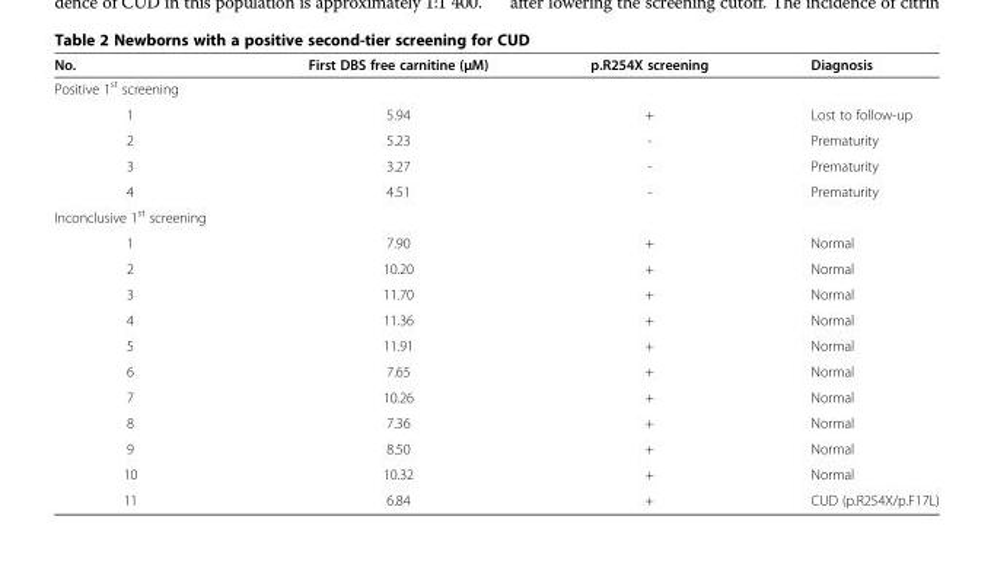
<table><thead><tr><td>No.</td><td>First DBS free carnitine (μM)</td><td>p.R254X screening</td><td>Diagnosis</td></tr></thead><tbody><tr><td colspan="4">Positive 1<sup>st</sup> screening</td></tr><tr><td>1</td><td>5.94</td><td>+</td><td>Lost to follow-up</td></tr><tr><td>2</td><td>5.23</td><td>-</td><td>Prematurity</td></tr><tr><td>3</td><td>3.27</td><td>-</td><td>Prematurity</td></tr><tr><td>4</td><td>4.51</td><td>-</td><td>Prematurity</td></tr><tr><td colspan="4">Inconclusive 1<sup>st</sup> screening</td></tr><tr><td>1</td><td>7.90</td><td>+</td><td>Normal</td></tr><tr><td>2</td><td>10.20</td><td>+</td><td>Normal</td></tr><tr><td>3</td><td>11.70</td><td>+</td><td>Normal</td></tr><tr><td>4</td><td>11.36</td><td>+</td><td>Normal</td></tr><tr><td>5</td><td>11.91</td><td>+</td><td>Normal</td></tr><tr><td>6</td><td>7.65</td><td>+</td><td>Normal</td></tr><tr><td>7</td><td>10.26</td><td>+</td><td>Normal</td></tr><tr><td>8</td><td>7.36</td><td>+</td><td>Normal</td></tr><tr><td>9</td><td>8.50</td><td>+</td><td>Normal</td></tr><tr><td>10</td><td>10.32</td><td>+</td><td>Normal</td></tr><tr><td>11</td><td>6.84</td><td>+</td><td>CUD (p.R254X/p.F17L)</td></tr></tbody></table>